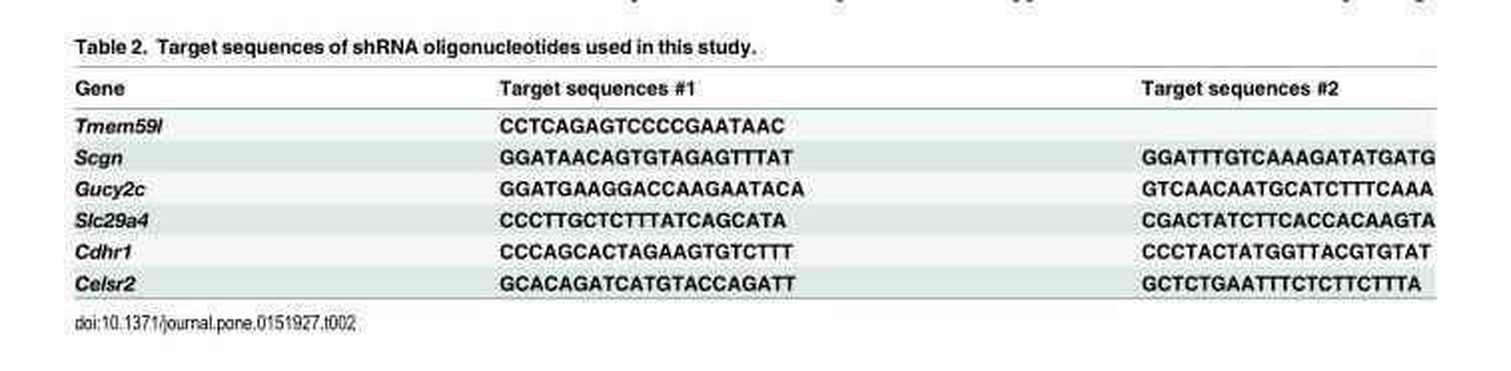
<table><thead><tr><td>Gene</td><td>Target sequences #1</td><td>Target sequences #2</td></tr></thead><tbody><tr><td>Tmem59l</td><td>CCTCAGAGTCCCCGAATAAC</td><td></td></tr><tr><td>Scgn</td><td>GGATAACAGTGTAGAGTTTAT</td><td>GGATTTGTCAAAGATATGATG</td></tr><tr><td>Gucy2c</td><td>GGATGAAGGACCAAGAATACA</td><td>GTCAACAATGCATCTTTCAAA</td></tr><tr><td>Slc29a4</td><td>CCCTTGCTCTTTATCAGCATA</td><td>CGACTATCTTCACCACAAGTA</td></tr><tr><td>Cdhr1</td><td>CCCAGCACTAGAAGTGTCTTT</td><td>CCCTACTATGGTTACGTGTAT</td></tr><tr><td>Celsr2</td><td>GCACAGATCATGTACCAGATT</td><td>GCTCTGAATTTCTCTTCTTTA</td></tr></tbody></table>